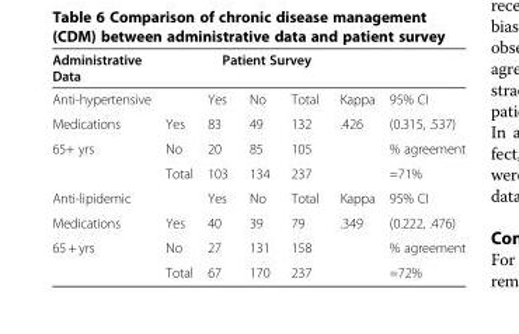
<table><thead><tr><td rowspan="2">Administrative Data Anti-hypertensive</td><td rowspan="2"></td><td colspan="3">Patient Survey</td><td rowspan="2">Kappa</td><td rowspan="2">95% CI</td></tr><tr><td>Yes</td><td>No</td><td>Total</td></tr></thead><tbody><tr><td>Medications</td><td>Yes</td><td>83</td><td>49</td><td>132</td><td>.426</td><td>(0.315, .537)</td></tr><tr><td rowspan="2">65+ yrs</td><td>No</td><td>20</td><td>85</td><td>105</td><td></td><td>% agreement</td></tr><tr><td>Total</td><td>103</td><td>134</td><td>237</td><td></td><td>=71%</td></tr><tr><td>Anti-lipidemic</td><td></td><td>Yes</td><td>No</td><td>Total</td><td>Kappa</td><td>95% CI</td></tr><tr><td>Medications</td><td>Yes</td><td>40</td><td>39</td><td>79</td><td>.349</td><td>(0.222, .476)</td></tr><tr><td rowspan="2">65 + yrs</td><td>No</td><td>27</td><td>131</td><td>158</td><td></td><td>% agreement</td></tr><tr><td>Total</td><td>67</td><td>170</td><td>237</td><td></td><td>=72%</td></tr></tbody></table>